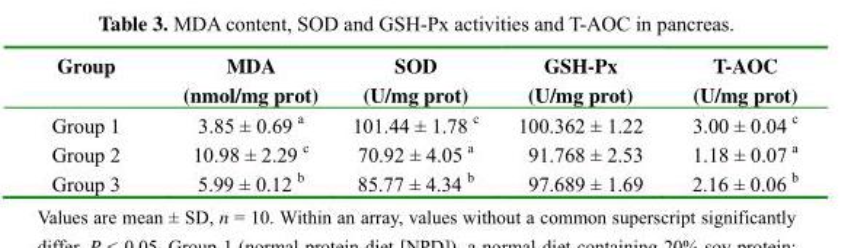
<table><thead><tr><td>Group</td><td>MDA (nmol/mg prot)</td><td>SOD (U/mg prot)</td><td>GSH-Px (U/mg prot)</td><td>T-AOC (U/mg prot)</td></tr></thead><tbody><tr><td>Group 1</td><td>3.85 ± 0.69 <sup>a</sup></td><td>101.44 ± 1.78 <sup>c</sup></td><td>100.362 ± 1.22</td><td>3.00 ± 0.04 <sup>c</sup></td></tr><tr><td>Group 2</td><td>10.98 ± 2.29 <sup>c</sup></td><td>70.92 ± 4.05 <sup>a</sup></td><td>91.768 ± 2.53</td><td>1.18 ± 0.07 <sup>a</sup></td></tr><tr><td>Group 3</td><td>5.99 ± 0.12 <sup>b</sup></td><td>85.77 ± 4.34 <sup>b</sup></td><td>97.689 ± 1.69</td><td>2.16 ± 0.06 <sup>b</sup></td></tr></tbody></table>